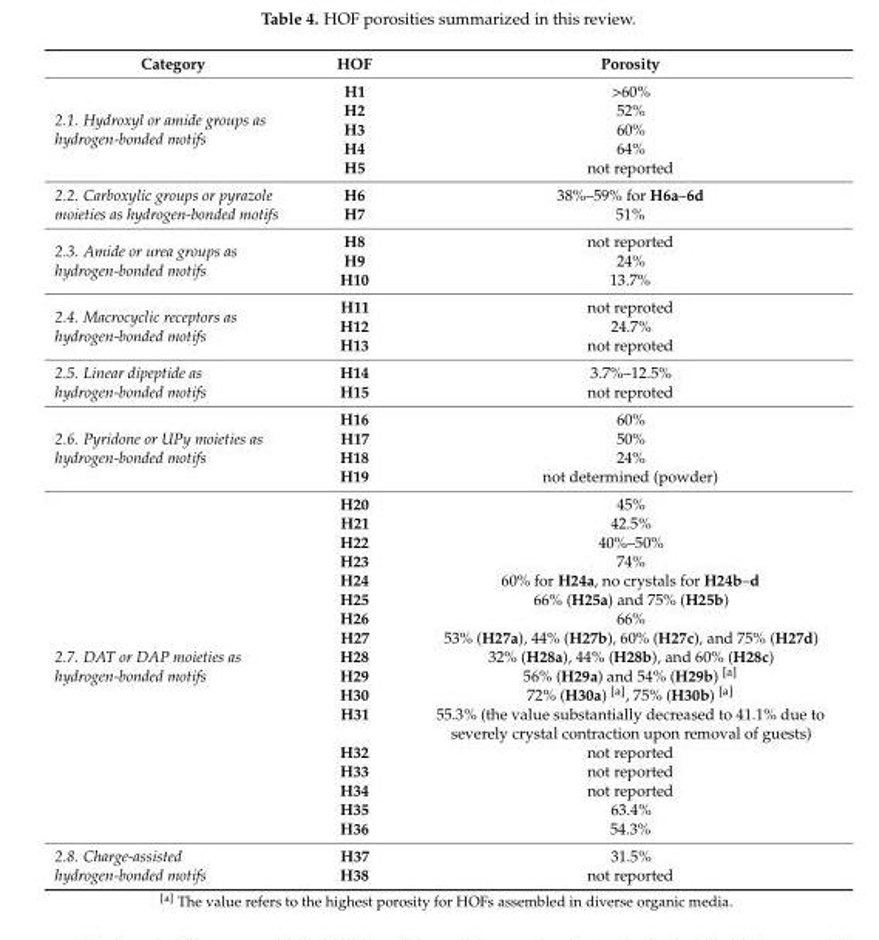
<table><thead><tr><td>Category</td><td>HOF</td><td>Porosity</td></tr></thead><tbody><tr><td>2.1. Hydroxyl or amide groups as hydrogen-bonded motifs</td><td>H1 H2 H3 H4 H5</td><td>&gt;60% 52% 60% 64% not reported</td></tr><tr><td>2.2. Carboxylic groups or pyrazole moieties as hydrogen-bonded motifs</td><td>H6 H7</td><td>38%–59% for H6a–6d 51%</td></tr><tr><td>2.3. Amide or urea groups as hydrogen-bonded motifs</td><td>H8 H9 H10</td><td>not reported 24% 13.7%</td></tr><tr><td>2.4. Macrocyclic receptors as hydrogen-bonded motifs</td><td>H11 H12 H13</td><td>not reproted 24.7% not reproted</td></tr><tr><td>2.5. Linear dipeptide as hydrogen-bonded motifs</td><td>H14 H15</td><td>3.7%–12.5% not reproted</td></tr><tr><td>2.6. Pyridone or UPy moieties as hydrogen-bonded motifs</td><td>H16 H17 H18 H19</td><td>60% 50% 24% not determined (powder)</td></tr><tr><td>2.7. DAT or DAP moieties as hydrogen-bonded motifs</td><td>H20 H21 H22 H23 H24 H25 H26 H27 H28 H29 H30 H31 H32 H33 H34 H35 H36</td><td>45% 42.5% 40%–50% 74% 60% for H24a, no crystals for H24b–d 66% (H25a) and 75% (H25b) 66% 53% (H27a), 44% (H27b), 60% (H27c), and 75% (H27d) 32% (H28a), 44% (H28b), and 60% (H28c) 56% (H29a) and 54% (H29b) [a] 72% (H30a) [a], 75% (H30b) [a] 55.3% (the value substantially decreased to 41.1% due to severely crystal contraction upon removal of guests) not reported not reported not reported 63.4% 54.3%</td></tr><tr><td>2.8. Charge-assisted hydrogen-bonded motifs</td><td>H37 H38</td><td>31.5% not reported</td></tr></tbody></table>